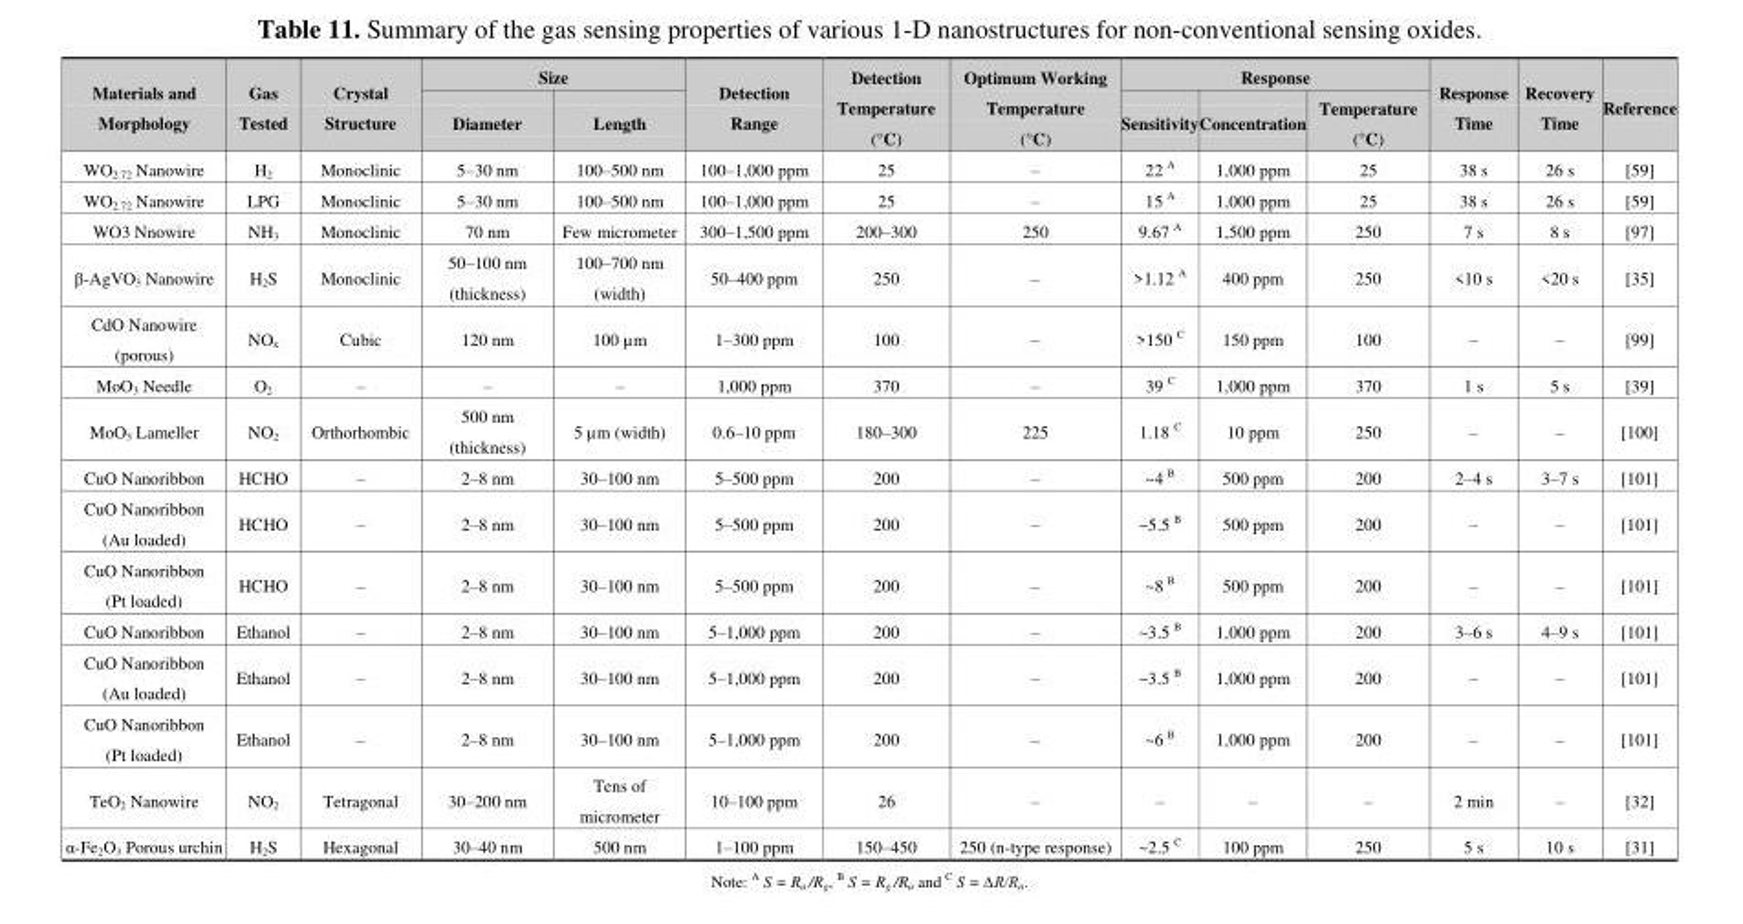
<table><thead><tr><td rowspan="2">Materials and Morphology</td><td rowspan="2">Gas Tested</td><td rowspan="2">Crystal Structure</td><td colspan="2">Size</td><td rowspan="2">Detection Range</td><td rowspan="2">Detection Temperature (°C)</td><td rowspan="2">Optimum Working Temperature (°C)</td><td colspan="3">Response</td><td rowspan="2">Response Time</td><td rowspan="2">Recovery Time</td><td rowspan="2">Reference</td></tr><tr><td>Diameter</td><td>Length</td><td>Sensitivity</td><td>Concentration</td><td>Temperature (°C)</td></tr></thead><tbody><tr><td>WO<sub>2.72</sub> Nanowire</td><td>H<sub>2</sub></td><td>Monoclinic</td><td>5–30 nm</td><td>100–500 nm</td><td>100–1,000 ppm</td><td>25</td><td>–</td><td>22 <sup>A</sup></td><td>1,000 ppm</td><td>25</td><td>38 s</td><td>26 s</td><td>[59]</td></tr><tr><td>WO<sub>2.72</sub> Nanowire</td><td>LPG</td><td>Monoclinic</td><td>5–30 nm</td><td>100–500 nm</td><td>100–1,000 ppm</td><td>25</td><td>–</td><td>15 <sup>A</sup></td><td>1,000 ppm</td><td>25</td><td>38 s</td><td>26 s</td><td>[59]</td></tr><tr><td>WO3 Nnowire</td><td>NH<sub>3</sub></td><td>Monoclinic</td><td>70 nm</td><td>Few micrometer</td><td>300–1,500 ppm</td><td>200–300</td><td>250</td><td>9.67 <sup>A</sup></td><td>1,500 ppm</td><td>250</td><td>7 s</td><td>8 s</td><td>[97]</td></tr><tr><td>β-AgVO<sub>3</sub> Nanowire</td><td>H<sub>2</sub>S</td><td>Monoclinic</td><td>50–100 nm (thickness)</td><td>100–700 nm (width)</td><td>50–400 ppm</td><td>250</td><td>–</td><td>&gt;1.12 <sup>A</sup></td><td>400 ppm</td><td>250</td><td>&lt;10 s</td><td>&lt;20 s</td><td>[35]</td></tr><tr><td>CdO Nanowire (porous)</td><td>NO<sub>x</sub></td><td>Cubic</td><td>120 nm</td><td>100 µm</td><td>1–300 ppm</td><td>100</td><td>–</td><td>&gt;150 <sup>C</sup></td><td>150 ppm</td><td>100</td><td>–</td><td>–</td><td>[99]</td></tr><tr><td>MoO<sub>3</sub> Needle</td><td>O<sub>2</sub></td><td>–</td><td>–</td><td>–</td><td>1,000 ppm</td><td>370</td><td>–</td><td>39 <sup>C</sup></td><td>1,000 ppm</td><td>370</td><td>1 s</td><td>5 s</td><td>[39]</td></tr><tr><td>MoO<sub>3</sub> Lameller</td><td>NO<sub>2</sub></td><td>Orthorhombic</td><td>500 nm (thickness)</td><td>5 µm (width)</td><td>0.6–10 ppm</td><td>180–300</td><td>225</td><td>1.18 <sup>C</sup></td><td>10 ppm</td><td>250</td><td>–</td><td>–</td><td>[100]</td></tr><tr><td>CuO Nanoribbon</td><td>HCHO</td><td>–</td><td>2–8 nm</td><td>30–100 nm</td><td>5–500 ppm</td><td>200</td><td>–</td><td>~4 B</td><td>500 ppm</td><td>200</td><td>2–4 s</td><td>3–7 s</td><td>[101]</td></tr><tr><td>CuO Nanoribbon (Au loaded)</td><td>HCHO</td><td>–</td><td>2–8 nm</td><td>30–100 nm</td><td>5–500 ppm</td><td>200</td><td>–</td><td>~5.5 B</td><td>500 ppm</td><td>200</td><td>–</td><td>–</td><td>[101]</td></tr><tr><td>CuO Nanoribbon (Pt loaded)</td><td>HCHO</td><td>–</td><td>2–8 nm</td><td>30–100 nm</td><td>5–500 ppm</td><td>200</td><td>–</td><td>~8 B</td><td>500 ppm</td><td>200</td><td>–</td><td>–</td><td>[101]</td></tr><tr><td>CuO Nanoribbon</td><td>Ethanol</td><td>–</td><td>2–8 nm</td><td>30–100 nm</td><td>5–1,000 ppm</td><td>200</td><td>–</td><td>~3.5 B</td><td>1,000 ppm</td><td>200</td><td>3–6 s</td><td>4–9 s</td><td>[101]</td></tr><tr><td>CuO Nanoribbon (Au loaded)</td><td>Ethanol</td><td>–</td><td>2–8 nm</td><td>30–100 nm</td><td>5–1,000 ppm</td><td>200</td><td>–</td><td>~3.5 B</td><td>1,000 ppm</td><td>200</td><td>–</td><td>–</td><td>[101]</td></tr><tr><td>CuO Nanoribbon (Pt loaded)</td><td>Ethanol</td><td>–</td><td>2–8 nm</td><td>30–100 nm</td><td>5–1,000 ppm</td><td>200</td><td>–</td><td>~6 B</td><td>1,000 ppm</td><td>200</td><td>–</td><td>–</td><td>[101]</td></tr><tr><td>TeO<sub>2</sub> Nanowire</td><td>NO<sub>2</sub></td><td>Tetragonal</td><td>30–200 nm</td><td>Tens of micrometer</td><td>10–100 ppm</td><td>26</td><td>–</td><td>–</td><td>–</td><td>–</td><td>2 min</td><td>–</td><td>[32]</td></tr><tr><td>α-Fe<sub>2</sub>O<sub>3</sub> Porous urchin</td><td>H<sub>2</sub>S</td><td>Hexagonal</td><td>30–40 nm</td><td>500 nm</td><td>1–100 ppm</td><td>150–450</td><td>250 (n-type response)</td><td>~2.5 C</td><td>100 ppm</td><td>250</td><td>5 s</td><td>10 s</td><td>[31]</td></tr></tbody></table>